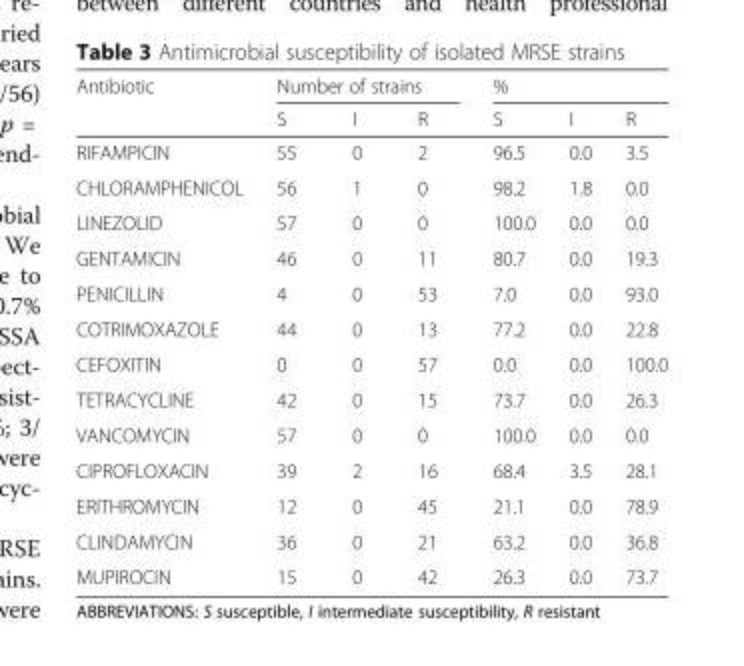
<table><thead><tr><td rowspan="2">Antibiotic</td><td colspan="3">Number of strains</td><td colspan="3">%</td></tr><tr><td>S</td><td>I</td><td>R</td><td>S</td><td>I</td><td>R</td></tr></thead><tbody><tr><td>RIFAMPICIN</td><td>55</td><td>0</td><td>2</td><td>96.5</td><td>0.0</td><td>3.5</td></tr><tr><td>CHLORAMPHENICOL</td><td>56</td><td>1</td><td>0</td><td>98.2</td><td>1.8</td><td>0.0</td></tr><tr><td>LINEZOLID</td><td>57</td><td>0</td><td>0</td><td>100.0</td><td>0.0</td><td>0.0</td></tr><tr><td>GENTAMICIN</td><td>46</td><td>0</td><td>11</td><td>80.7</td><td>0.0</td><td>19.3</td></tr><tr><td>PENICILLIN</td><td>4</td><td>0</td><td>53</td><td>7.0</td><td>0.0</td><td>93.0</td></tr><tr><td>COTRIMOXAZOLE</td><td>44</td><td>0</td><td>13</td><td>77.2</td><td>0.0</td><td>22.8</td></tr><tr><td>CEFOXITIN</td><td>0</td><td>0</td><td>57</td><td>0.0</td><td>0.0</td><td>100.0</td></tr><tr><td>TETRACYCLINE</td><td>42</td><td>0</td><td>15</td><td>73.7</td><td>0.0</td><td>26.3</td></tr><tr><td>VANCOMYCIN</td><td>57</td><td>0</td><td>0</td><td>100.0</td><td>0.0</td><td>0.0</td></tr><tr><td>CIPROFLOXACIN</td><td>39</td><td>2</td><td>16</td><td>68.4</td><td>3.5</td><td>28.1</td></tr><tr><td>ERITHROMYCIN</td><td>12</td><td>0</td><td>45</td><td>21.1</td><td>0.0</td><td>78.9</td></tr><tr><td>CLINDAMYCIN</td><td>36</td><td>0</td><td>21</td><td>63.2</td><td>0.0</td><td>36.8</td></tr><tr><td>MUPIROCIN</td><td>15</td><td>0</td><td>42</td><td>26.3</td><td>0.0</td><td>73.7</td></tr></tbody></table>